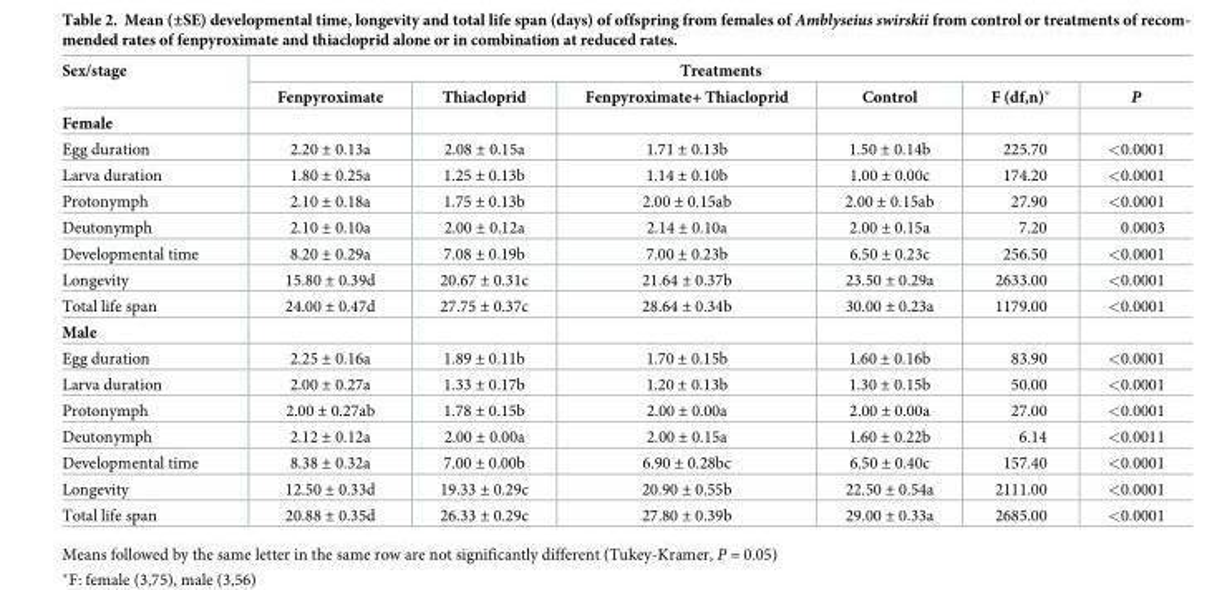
<table><thead><tr><td rowspan="2">Sex/stage</td><td colspan="6">Treatments</td></tr><tr><td>Fenpyroximate</td><td>Thiacloprid</td><td>Fenpyroximate+ Thiacloprid</td><td>Control</td><td>F (df,n)*</td><td>P</td></tr></thead><tbody><tr><td colspan="7">Female</td></tr><tr><td>Egg duration</td><td>2.20 ± 0.13a</td><td>2.08 ± 0.15a</td><td>1.71 ± 0.13b</td><td>1.50 ± 0.14b</td><td>225.70</td><td>&lt;0.0001</td></tr><tr><td>Larva duration</td><td>1.80 ± 0.25a</td><td>1.25 ± 0.13b</td><td>1.14 ± 0.10b</td><td>1.00 ± 0.00c</td><td>174.20</td><td>&lt;0.0001</td></tr><tr><td>Protonymph</td><td>2.10 ± 0.18a</td><td>1.75 ± 0.13b</td><td>2.00 ± 0.15ab</td><td>2.00 ± 0.15ab</td><td>27.90</td><td>&lt;0.0001</td></tr><tr><td>Deutonymph</td><td>2.10 ± 0.10a</td><td>2.00 ± 0.12a</td><td>2.14 ± 0.10a</td><td>2.00 ± 0.15a</td><td>7.20</td><td>0.0003</td></tr><tr><td>Developmental time</td><td>8.20 ± 0.29a</td><td>7.08 ± 0.19b</td><td>7.00 ± 0.23b</td><td>6.50 ± 0.23c</td><td>256.50</td><td>&lt;0.0001</td></tr><tr><td>Longevity</td><td>15.80 ± 0.39d</td><td>20.67 ± 0.31c</td><td>21.64 ± 0.37b</td><td>23.50 ± 0.29a</td><td>2633.00</td><td>&lt;0.0001</td></tr><tr><td>Total life span</td><td>24.00 ± 0.47d</td><td>27.75 ± 0.37c</td><td>28.64 ± 0.34b</td><td>30.00 ± 0.23a</td><td>1179.00</td><td>&lt;0.0001</td></tr><tr><td colspan="7">Male</td></tr><tr><td>Egg duration</td><td>2.25 ± 0.16a</td><td>1.89 ± 0.11b</td><td>1.70 ± 0.15b</td><td>1.60 ± 0.16b</td><td>83.90</td><td>&lt;0.0001</td></tr><tr><td>Larva duration</td><td>2.00 ± 0.27a</td><td>1.33 ± 0.17b</td><td>1.20 ± 0.13b</td><td>1.30 ± 0.15b</td><td>50.00</td><td>&lt;0.0001</td></tr><tr><td>Protonymph</td><td>2.00 ± 0.27ab</td><td>1.78 ± 0.15b</td><td>2.00 ± 0.00a</td><td>2.00 ± 0.00a</td><td>27.00</td><td>&lt;0.0001</td></tr><tr><td>Deutonymph</td><td>2.12 ± 0.12a</td><td>2.00 ± 0.00a</td><td>2.00 ± 0.15a</td><td>1.60 ± 0.22b</td><td>6.14</td><td>&lt;0.0011</td></tr><tr><td>Developmental time</td><td>8.38 ± 0.32a</td><td>7.00 ± 0.00b</td><td>6.90 ± 0.28bc</td><td>6.50 ± 0.40c</td><td>157.40</td><td>&lt;0.0001</td></tr><tr><td>Longevity</td><td>12.50 ± 0.33d</td><td>19.33 ± 0.29c</td><td>20.90 ± 0.55b</td><td>22.50 ± 0.54a</td><td>2111.00</td><td>&lt;0.0001</td></tr><tr><td>Total life span</td><td>20.88 ± 0.35d</td><td>26.33 ± 0.29c</td><td>27.80 ± 0.39b</td><td>29.00 ± 0.33a</td><td>2685.00</td><td>&lt;0.0001</td></tr></tbody></table>